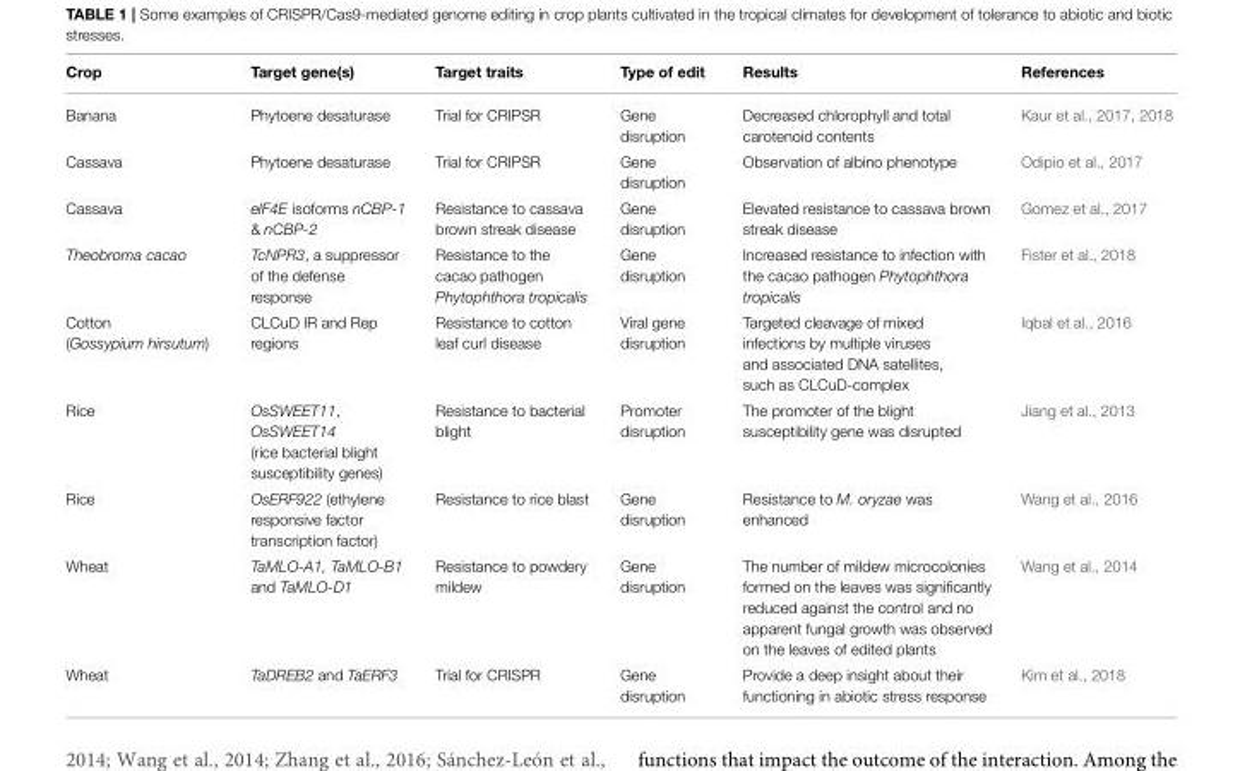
<table><thead><tr><td>Crop</td><td>Target gene(s)</td><td>Target traits</td><td>Type of edit</td><td>Results</td><td>References</td></tr></thead><tbody><tr><td>Banana</td><td>Phytoene desaturase</td><td>Trial for CRIPSR</td><td>Gene disruption</td><td>Decreased chlorophyll and total carotenoid contents</td><td>Kaur et al., 2017, 2018</td></tr><tr><td>Cassava</td><td>Phytoene desaturase</td><td>Trial for CRIPSR</td><td>Gene disruption</td><td>Observation of albino phenotype</td><td>Odipio et al., 2017</td></tr><tr><td>Cassava</td><td>elF4E isoforms nCBP-1 &amp; nCBP-2</td><td>Resistance to cassava brown streak disease</td><td>Gene disruption</td><td>Elevated resistance to cassava brown streak disease</td><td>Gomez et al., 2017</td></tr><tr><td>Theobroma cacao</td><td>TcNPR3, a suppressor of the defense response</td><td>Resistance to the cacao pathogen Phytophthora tropicalis</td><td>Gene disruption</td><td>Increased resistance to infection with the cacao pathogen Phytophthora tropicalis</td><td>Fister et al., 2018</td></tr><tr><td>Cotton (Gossypium hirsutum)</td><td>CLCuD IR and Rep regions</td><td>Resistance to cotton leaf curl disease</td><td>Viral gene disruption</td><td>Targeted cleavage of mixed infections by multiple viruses and associated DNA satellites, such as CLCuD-complex</td><td>Iqbal et al., 2016</td></tr><tr><td>Rice</td><td>OsSWEET11, OsSWEET14 (rice bacterial blight susceptibility genes)</td><td>Resistance to bacterial blight</td><td>Promoter disruption</td><td>The promoter of the blight susceptibility gene was disrupted</td><td>Jiang et al., 2013</td></tr><tr><td>Rice</td><td>OsERF922 (ethylene responsive factor transcription factor)</td><td>Resistance to rice blast</td><td>Gene disruption</td><td>Resistance to M. oryzae was enhanced</td><td>Wang et al., 2016</td></tr><tr><td>Wheat</td><td>TaMLO-A1, TaMLO-B1 and TaMLO-D1</td><td>Resistance to powdery mildew</td><td>Gene disruption</td><td>The number of mildew microcolonies formed on the leaves was significantly reduced against the control and no apparent fungal growth was observed on the leaves of edited plants</td><td>Wang et al., 2014</td></tr><tr><td>Wheat</td><td>TaDREB2 and TaERF3</td><td>Trial for CRISPR</td><td>Gene disruption</td><td>Provide a deep insight about their functioning in abiotic stress response</td><td>Kim et al., 2018</td></tr></tbody></table>